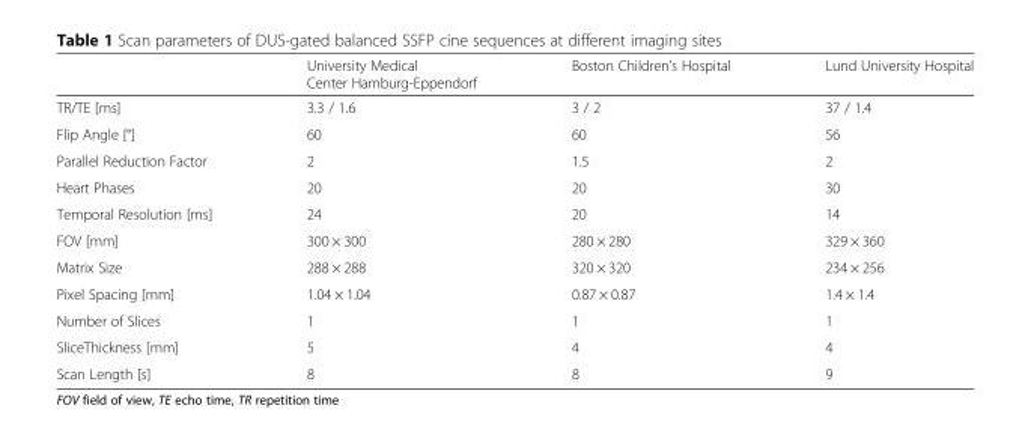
<table><thead><tr><td></td><td>University Medical Center Hamburg-Eppendorf</td><td>Boston Children’s Hospital</td><td>Lund University Hospital</td></tr></thead><tbody><tr><td>TR/TE [ms]</td><td>3.3 / 1.6</td><td>3 / 2</td><td>37 / 1.4</td></tr><tr><td>Flip Angle [°]</td><td>60</td><td>60</td><td>56</td></tr><tr><td>Parallel Reduction Factor</td><td>2</td><td>1.5</td><td>2</td></tr><tr><td>Heart Phases</td><td>20</td><td>20</td><td>30</td></tr><tr><td>Temporal Resolution [ms]</td><td>24</td><td>20</td><td>14</td></tr><tr><td>FOV [mm]</td><td>300 × 300</td><td>280 × 280</td><td>329 × 360</td></tr><tr><td>Matrix Size</td><td>288 × 288</td><td>320 × 320</td><td>234 × 256</td></tr><tr><td>Pixel Spacing [mm]</td><td>1.04 × 1.04</td><td>0.87 × 0.87</td><td>1.4 × 1.4</td></tr><tr><td>Number of Slices</td><td>1</td><td>1</td><td>1</td></tr><tr><td>SliceThickness [mm]</td><td>5</td><td>4</td><td>4</td></tr><tr><td>Scan Length [s]</td><td>8</td><td>8</td><td>9</td></tr></tbody></table>